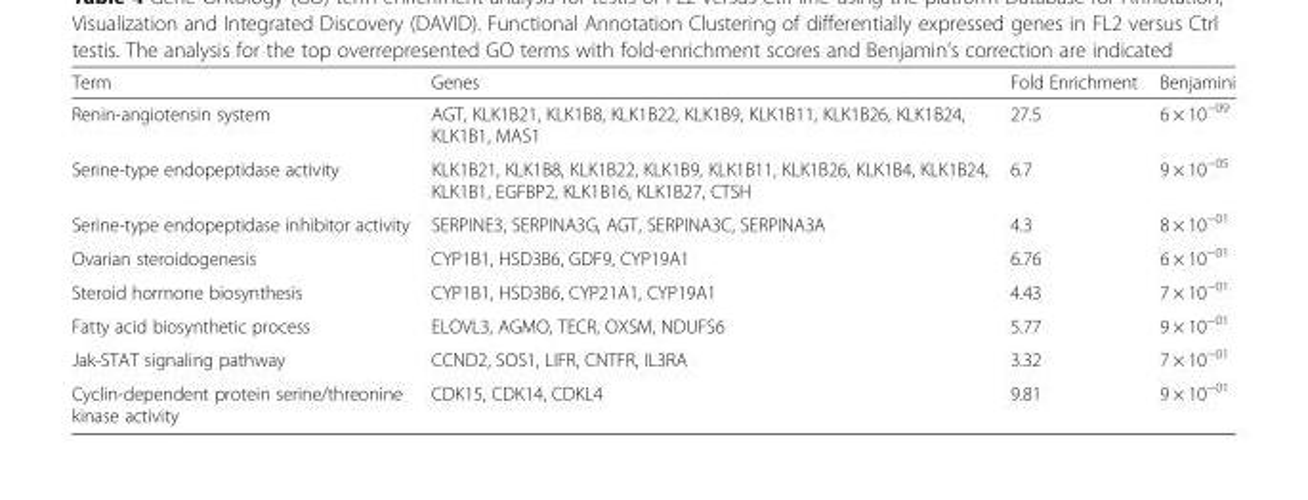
<table><thead><tr><td>Term</td><td>Genes</td><td>Fold Enrichment</td><td>Benjamini</td></tr></thead><tbody><tr><td>Renin-angiotensin system</td><td>AGT, KLK1B21, KLK1B8, KLK1B22, KLK1B9, KLK1B11, KLK1B26, KLK1B24, KLK1B1, MAS1</td><td>27.5</td><td>6 × 10<sup>−09</sup></td></tr><tr><td>Serine-type endopeptidase activity</td><td>KLK1B21, KLK1B8, KLK1B22, KLK1B9, KLK1B11, KLK1B26, KLK1B4, KLK1B24, KLK1B1, EGFBP2, KLK1B16, KLK1B27, CTSH</td><td>6.7</td><td>9 × 10<sup>−05</sup></td></tr><tr><td>Serine-type endopeptidase inhibitor activity</td><td>SERPINE3, SERPINA3G, AGT, SERPINA3C, SERPINA3A</td><td>4.3</td><td>8 × 10<sup>−01</sup></td></tr><tr><td>Ovarian steroidogenesis</td><td>CYP1B1, HSD3B6, GDF9, CYP19A1</td><td>6.76</td><td>6 × 10<sup>−01</sup></td></tr><tr><td>Steroid hormone biosynthesis</td><td>CYP1B1, HSD3B6, CYP21A1, CYP19A1</td><td>4.43</td><td>7 × 10<sup>−01</sup></td></tr><tr><td>Fatty acid biosynthetic process</td><td>ELOVL3, AGMO, TECR, OXSM, NDUFS6</td><td>5.77</td><td>9 × 10<sup>−01</sup></td></tr><tr><td>Jak-STAT signaling pathway</td><td>CCND2, SOS1, LIFR, CNTFR, IL3RA</td><td>3.32</td><td>7 × 10<sup>−01</sup></td></tr><tr><td>Cyclin-dependent protein serine/threonine kinase activity</td><td>CDK15, CDK14, CDKL4</td><td>9.81</td><td>9 × 10<sup>−01</sup></td></tr></tbody></table>